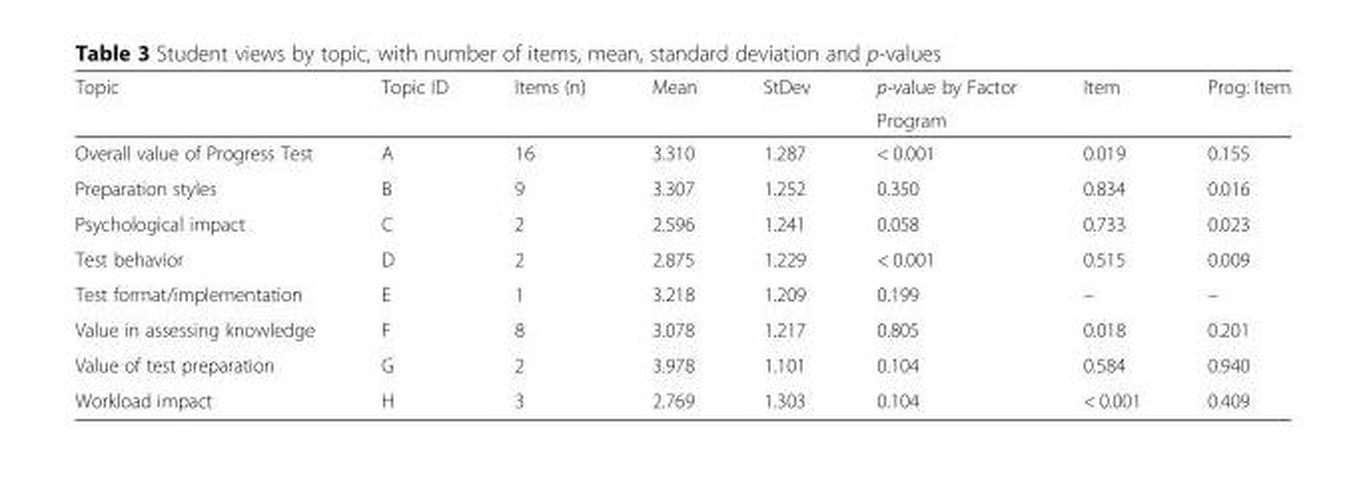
<table><thead><tr><td rowspan="2">Topic</td><td rowspan="2">Topic ID</td><td rowspan="2">Items (n)</td><td rowspan="2">Mean</td><td rowspan="2">StDev</td><td rowspan="2">p-value by Factor Program</td><td rowspan="2">Item</td><td rowspan="2">Prog: Item</td></tr><tr></tr></thead><tbody><tr><td>Overall value of Progress Test</td><td>A</td><td>16</td><td>3.310</td><td>1.287</td><td>&lt; 0.001</td><td>0.019</td><td>0.155</td></tr><tr><td>Preparation styles</td><td>B</td><td>9</td><td>3.307</td><td>1.252</td><td>0.350</td><td>0.834</td><td>0.016</td></tr><tr><td>Psychological impact</td><td>C</td><td>2</td><td>2.596</td><td>1.241</td><td>0.058</td><td>0.733</td><td>0.023</td></tr><tr><td>Test behavior</td><td>D</td><td>2</td><td>2.875</td><td>1.229</td><td>&lt; 0.001</td><td>0.515</td><td>0.009</td></tr><tr><td>Test format/implementation</td><td>E</td><td>1</td><td>3.218</td><td>1.209</td><td>0.199</td><td>–</td><td>–</td></tr><tr><td>Value in assessing knowledge</td><td>F</td><td>8</td><td>3.078</td><td>1.217</td><td>0.805</td><td>0.018</td><td>0.201</td></tr><tr><td>Value of test preparation</td><td>G</td><td>2</td><td>3.978</td><td>1.101</td><td>0.104</td><td>0.584</td><td>0.940</td></tr><tr><td>Workload impact</td><td>H</td><td>3</td><td>2.769</td><td>1.303</td><td>0.104</td><td>&lt; 0.001</td><td>0.409</td></tr></tbody></table>